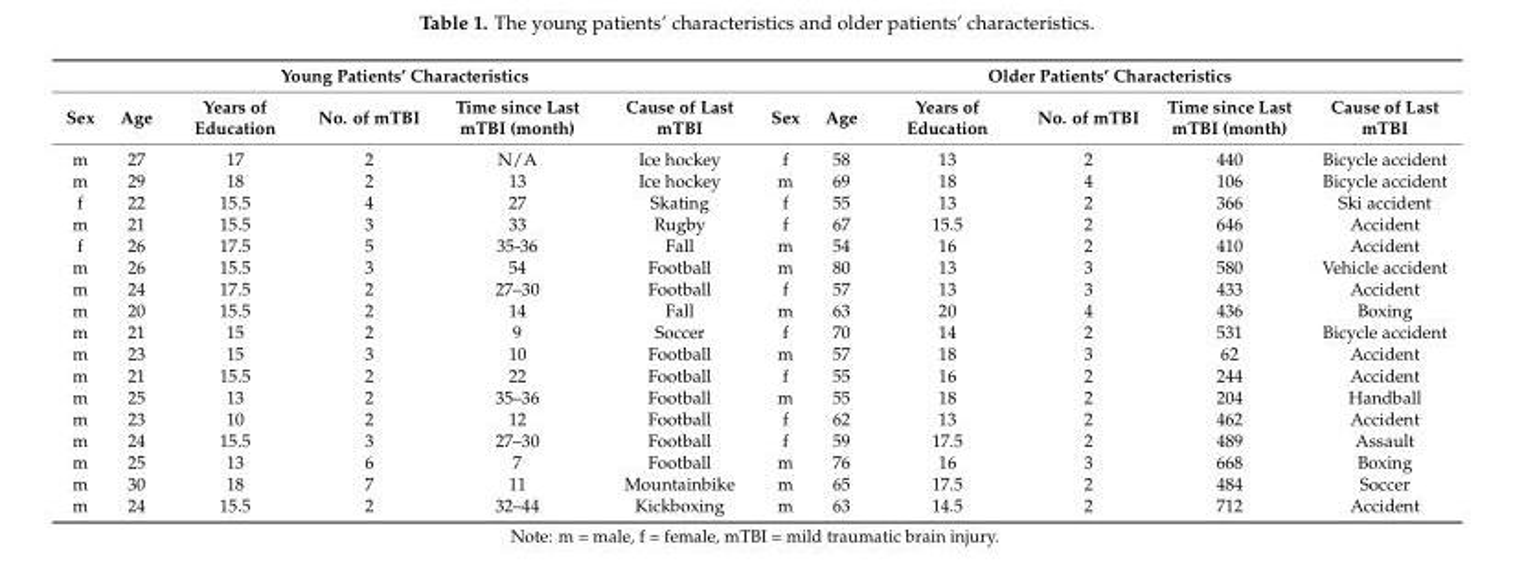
<table><thead><tr><td colspan="6">Young Patients’ Characteristics</td><td colspan="6">Older Patients’ Characteristics</td></tr><tr><td>Sex</td><td>Age</td><td>Years of Education</td><td>No. of mTBI</td><td>Time since Last mTBI (month)</td><td>Cause of Last mTBI</td><td>Sex</td><td>Age</td><td>Years of Education</td><td>No. of mTBI</td><td>Time since Last mTBI (month)</td><td>Cause of Last mTBI</td></tr></thead><tbody><tr><td>m</td><td>27</td><td>17</td><td>2</td><td>N/A</td><td>Ice hockey</td><td>f</td><td>58</td><td>13</td><td>2</td><td>440</td><td>Bicycle accident</td></tr><tr><td>m</td><td>29</td><td>18</td><td>2</td><td>13</td><td>Ice hockey</td><td>m</td><td>69</td><td>18</td><td>4</td><td>106</td><td>Bicycle accident</td></tr><tr><td>f</td><td>22</td><td>15.5</td><td>4</td><td>27</td><td>Skating</td><td>f</td><td>55</td><td>13</td><td>2</td><td>366</td><td>Ski accident</td></tr><tr><td>m</td><td>21</td><td>15.5</td><td>3</td><td>33</td><td>Rugby</td><td>f</td><td>67</td><td>15.5</td><td>2</td><td>646</td><td>Accident</td></tr><tr><td>f</td><td>26</td><td>17.5</td><td>5</td><td>35-36</td><td>Fall</td><td>m</td><td>54</td><td>16</td><td>2</td><td>410</td><td>Accident</td></tr><tr><td>m</td><td>26</td><td>15.5</td><td>3</td><td>54</td><td>Football</td><td>m</td><td>80</td><td>13</td><td>3</td><td>580</td><td>Vehicle accident</td></tr><tr><td>m</td><td>24</td><td>17.5</td><td>2</td><td>27–30</td><td>Football</td><td>f</td><td>57</td><td>13</td><td>3</td><td>433</td><td>Accident</td></tr><tr><td>m</td><td>20</td><td>15.5</td><td>2</td><td>14</td><td>Fall</td><td>m</td><td>63</td><td>20</td><td>4</td><td>436</td><td>Boxing</td></tr><tr><td>m</td><td>21</td><td>15</td><td>2</td><td>9</td><td>Soccer</td><td>f</td><td>70</td><td>14</td><td>2</td><td>531</td><td>Bicycle accident</td></tr><tr><td>m</td><td>23</td><td>15</td><td>3</td><td>10</td><td>Football</td><td>m</td><td>57</td><td>18</td><td>3</td><td>62</td><td>Accident</td></tr><tr><td>m</td><td>21</td><td>15.5</td><td>2</td><td>22</td><td>Football</td><td>f</td><td>55</td><td>16</td><td>2</td><td>244</td><td>Accident</td></tr><tr><td>m</td><td>25</td><td>13</td><td>2</td><td>35–36</td><td>Football</td><td>m</td><td>55</td><td>18</td><td>2</td><td>204</td><td>Handball</td></tr><tr><td>m</td><td>23</td><td>10</td><td>2</td><td>12</td><td>Football</td><td>f</td><td>62</td><td>13</td><td>2</td><td>462</td><td>Accident</td></tr><tr><td>m</td><td>24</td><td>15.5</td><td>3</td><td>27–30</td><td>Football</td><td>f</td><td>59</td><td>17.5</td><td>2</td><td>489</td><td>Assault</td></tr><tr><td>m</td><td>25</td><td>13</td><td>6</td><td>7</td><td>Football</td><td>m</td><td>76</td><td>16</td><td>3</td><td>668</td><td>Boxing</td></tr><tr><td>m</td><td>30</td><td>18</td><td>7</td><td>11</td><td>Mountainbike</td><td>m</td><td>65</td><td>17.5</td><td>2</td><td>484</td><td>Soccer</td></tr><tr><td>m</td><td>24</td><td>15.5</td><td>2</td><td>32–44</td><td>Kickboxing</td><td>m</td><td>63</td><td>14.5</td><td>2</td><td>712</td><td>Accident</td></tr></tbody></table>